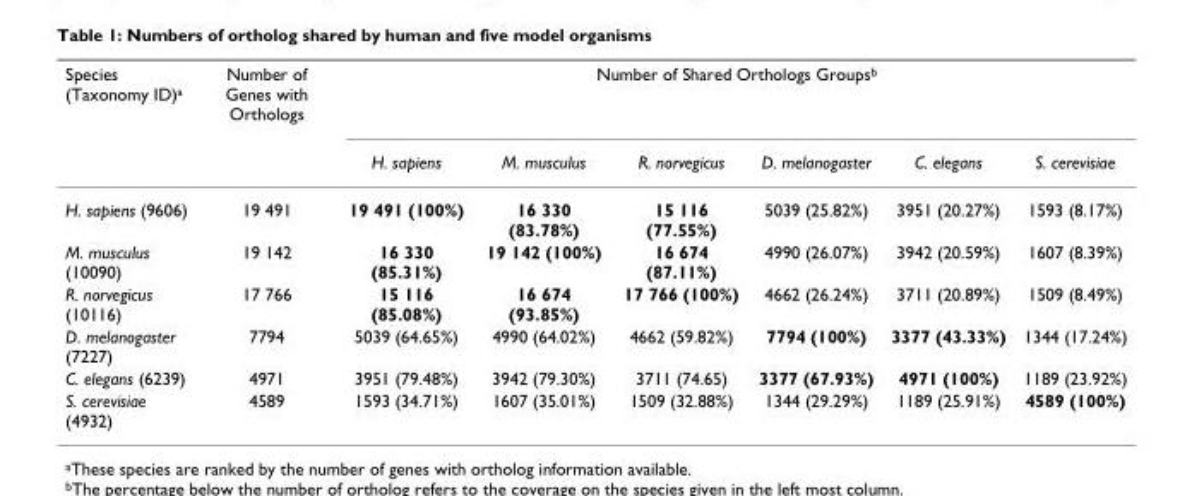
<table><thead><tr><td rowspan="2">Species (Taxonomy ID)<sup>a</sup></td><td rowspan="2">Number of Genes with Orthologs</td><td colspan="6">Number of Shared Orthologs Groups<sup>b</sup></td></tr><tr><td>H. sapiens</td><td>M. musculus</td><td>R. norvegicus</td><td>D. melanogaster</td><td>C. elegans</td><td>S. cerevisiae</td></tr></thead><tbody><tr><td>H. sapiens (9606)</td><td>19 491</td><td>19 491 (100%)</td><td>16 330 (83.78%)</td><td>15 116 (77.55%)</td><td>5039 (25.82%)</td><td>3951 (20.27%)</td><td>1593 (8.17%)</td></tr><tr><td>M. musculus (10090)</td><td>19 142</td><td>16 330 (85.31%)</td><td>19 142 (100%)</td><td>16 674 (87.11%)</td><td>4990 (26.07%)</td><td>3942 (20.59%)</td><td>1607 (8.39%)</td></tr><tr><td>R. norvegicus (10116)</td><td>17 766</td><td>15 116 (85.08%)</td><td>16 674 (93.85%)</td><td>17 766 (100%)</td><td>4662 (26.24%)</td><td>3711 (20.89%)</td><td>1509 (8.49%)</td></tr><tr><td>D. melanogaster (7227)</td><td>7794</td><td>5039 (64.65%)</td><td>4990 (64.02%)</td><td>4662 (59.82%)</td><td>7794 (100%)</td><td>3377 (43.33%)</td><td>1344 (17.24%)</td></tr><tr><td>C. elegans (6239)</td><td>4971</td><td>3951 (79.48%)</td><td>3942 (79.30%)</td><td>3711 (74.65)</td><td>3377 (67.93%)</td><td>4971 (100%)</td><td>1189 (23.92%)</td></tr><tr><td>S. cerevisiae (4932)</td><td>4589</td><td>1593 (34.71%)</td><td>1607 (35.01%)</td><td>1509 (32.88%)</td><td>1344 (29.29%)</td><td>1189 (25.91%)</td><td>4589 (100%)</td></tr></tbody></table>